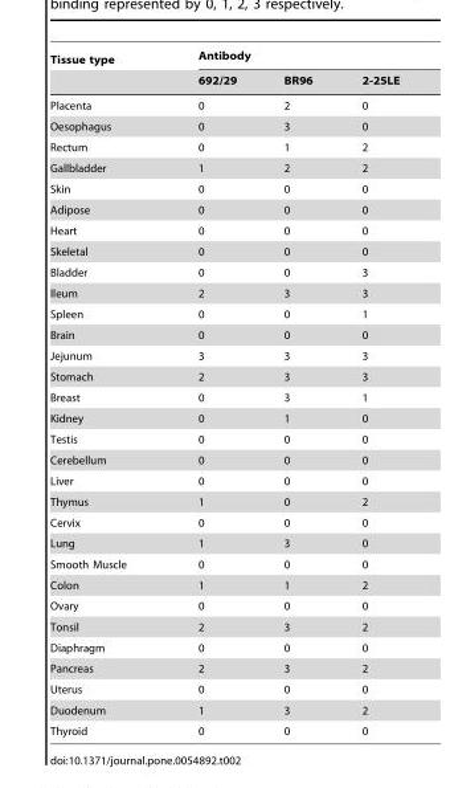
<table><thead><tr><td rowspan="2">Tissue type</td><td colspan="3">Antibody</td></tr><tr><td>692/29</td><td>BR96</td><td>2-25LE</td></tr></thead><tbody><tr><td>Placenta</td><td>0</td><td>2</td><td>0</td></tr><tr><td>Oesophagus</td><td>0</td><td>3</td><td>0</td></tr><tr><td>Rectum</td><td>0</td><td>1</td><td>2</td></tr><tr><td>Gallbladder</td><td>1</td><td>2</td><td>2</td></tr><tr><td>Skin</td><td>0</td><td>0</td><td>0</td></tr><tr><td>Adipose</td><td>0</td><td>0</td><td>0</td></tr><tr><td>Heart</td><td>0</td><td>0</td><td>0</td></tr><tr><td>Skeletal</td><td>0</td><td>0</td><td>0</td></tr><tr><td>Bladder</td><td>0</td><td>0</td><td>3</td></tr><tr><td>Ileum</td><td>2</td><td>3</td><td>3</td></tr><tr><td>Spleen</td><td>0</td><td>0</td><td>1</td></tr><tr><td>Brain</td><td>0</td><td>0</td><td>0</td></tr><tr><td>Jejunum</td><td>3</td><td>3</td><td>3</td></tr><tr><td>Stomach</td><td>2</td><td>3</td><td>3</td></tr><tr><td>Breast</td><td>0</td><td>3</td><td>1</td></tr><tr><td>Kidney</td><td>0</td><td>1</td><td>0</td></tr><tr><td>Testis</td><td>0</td><td>0</td><td>0</td></tr><tr><td>Cerebellum</td><td>0</td><td>0</td><td>0</td></tr><tr><td>Liver</td><td>0</td><td>0</td><td>0</td></tr><tr><td>Thymus</td><td>1</td><td>0</td><td>2</td></tr><tr><td>Cervix</td><td>0</td><td>0</td><td>0</td></tr><tr><td>Lung</td><td>1</td><td>3</td><td>0</td></tr><tr><td>Smooth Muscle</td><td>0</td><td>0</td><td>0</td></tr><tr><td>Colon</td><td>1</td><td>1</td><td>2</td></tr><tr><td>Ovary</td><td>0</td><td>0</td><td>0</td></tr><tr><td>Tonsil</td><td>2</td><td>3</td><td>2</td></tr><tr><td>Diaphragm</td><td>0</td><td>0</td><td>0</td></tr><tr><td>Pancreas</td><td>2</td><td>3</td><td>2</td></tr><tr><td>Uterus</td><td>0</td><td>0</td><td>0</td></tr><tr><td>Duodenum</td><td>1</td><td>3</td><td>2</td></tr><tr><td>Thyroid</td><td>0</td><td>0</td><td>0</td></tr></tbody></table>